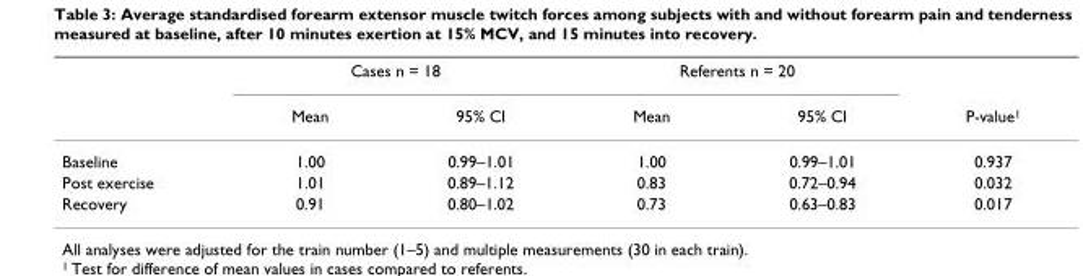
<table><thead><tr><td rowspan="2"></td><td colspan="2">Cases n = 18</td><td colspan="2">Referents n = 20</td><td rowspan="2">P-value<sup>1</sup></td></tr><tr><td>Mean</td><td>95% CI</td><td>Mean</td><td>95% CI</td></tr></thead><tbody><tr><td>Baseline</td><td>1.00</td><td>0.99–1.01</td><td>1.00</td><td>0.99–1.01</td><td>0.937</td></tr><tr><td>Post exercise</td><td>1.01</td><td>0.89–1.12</td><td>0.83</td><td>0.72–0.94</td><td>0.032</td></tr><tr><td>Recovery</td><td>0.91</td><td>0.80–1.02</td><td>0.73</td><td>0.63–0.83</td><td>0.017</td></tr></tbody></table>